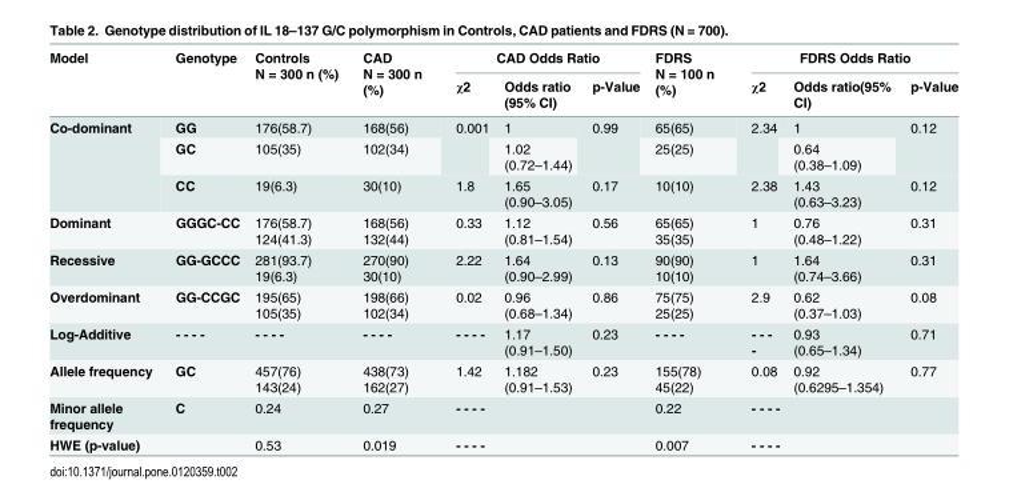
<table><thead><tr><td rowspan="2">Model</td><td rowspan="2">Genotype</td><td rowspan="2">Controls N = 300 n (%)</td><td rowspan="2">CAD N = 300 n (%)</td><td colspan="3">CAD Odds Ratio</td><td rowspan="2">FDRS N = 100 n (%)</td><td colspan="3">FDRS Odds Ratio</td></tr><tr><td>χ2</td><td>Odds ratio (95% CI)</td><td>p-Value</td><td>χ2</td><td>Odds ratio(95% CI)</td><td>p-Value</td></tr></thead><tbody><tr><td rowspan="3">Co-dominant</td><td>GG</td><td>176(58.7)</td><td>168(56)</td><td rowspan="2">0.001</td><td>1</td><td rowspan="2">0.99</td><td>65(65)</td><td rowspan="2">2.34</td><td>1</td><td rowspan="2">0.12</td></tr><tr><td>GC</td><td>105(35)</td><td>102(34)</td><td>1.02 (0.72–1.44)</td><td>25(25)</td><td>0.64 (0.38–1.09)</td></tr><tr><td>CC</td><td>19(6.3)</td><td>30(10)</td><td>1.8</td><td>1.65 (0.90–3.05)</td><td>0.17</td><td>10(10)</td><td>2.38</td><td>1.43 (0.63–3.23)</td><td>0.12</td></tr><tr><td>Dominant</td><td>GGGC-CC</td><td>176(58.7) 124(41.3)</td><td>168(56) 132(44)</td><td>0.33</td><td>1.12 (0.81–1.54)</td><td>0.56</td><td>65(65) 35(35)</td><td>1</td><td>0.76 (0.48–1.22)</td><td>0.31</td></tr><tr><td>Recessive</td><td>GG-GCCC</td><td>281(93.7) 19(6.3)</td><td>270(90) 30(10)</td><td>2.22</td><td>1.64 (0.90–2.99)</td><td>0.13</td><td>90(90) 10(10)</td><td>1</td><td>1.64 (0.74–3.66)</td><td>0.31</td></tr><tr><td>Overdominant</td><td>GG-CCGC</td><td>195(65) 105(35)</td><td>198(66) 102(34)</td><td>0.02</td><td>0.96 (0.68–1.34)</td><td>0.86</td><td>75(75) 25(25)</td><td>2.9</td><td>0.62 (0.37–1.03)</td><td>0.08</td></tr><tr><td>Log-Additive</td><td>- - - -</td><td>- - - -</td><td>- - - -</td><td>- - - -</td><td>1.17 (0.91–1.50)</td><td>0.23</td><td>- - - -</td><td>- - - -</td><td>0.93 (0.65–1.34)</td><td>0.71</td></tr><tr><td>Allele frequency</td><td>GC</td><td>457(76) 143(24)</td><td>438(73) 162(27)</td><td>1.42</td><td>1.182 (0.91–1.53)</td><td>0.23</td><td>155(78) 45(22)</td><td>0.08</td><td>0.92 (0.6295–1.354)</td><td>0.77</td></tr><tr><td>Minor allele frequency</td><td>C</td><td>0.24</td><td>0.27</td><td colspan="3">- - - -</td><td>0.22</td><td colspan="3">- - - -</td></tr><tr><td>HWE (p-value)</td><td></td><td>0.53</td><td>0.019</td><td colspan="3">- - - -</td><td>0.007</td><td colspan="3">- - - -</td></tr></tbody></table>